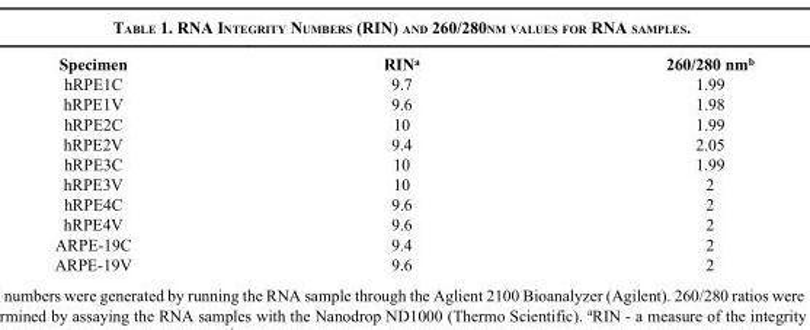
<table><thead><tr><td>Specimen</td><td>RIN<sup>a</sup></td><td>260/280 nm<sup>b</sup></td></tr></thead><tbody><tr><td>hRPE1C</td><td>9.7</td><td>1.99</td></tr><tr><td>hRPE1V</td><td>9.6</td><td>1.98</td></tr><tr><td>hRPE2C</td><td>10</td><td>1.99</td></tr><tr><td>hRPE2V</td><td>9.4</td><td>2.05</td></tr><tr><td>hRPE3C</td><td>10</td><td>1.99</td></tr><tr><td>hRPE3V</td><td>10</td><td>2</td></tr><tr><td>hRPE4C</td><td>9.6</td><td>2</td></tr><tr><td>hRPE4V</td><td>9.6</td><td>2</td></tr><tr><td>ARPE-19C</td><td>9.4</td><td>2</td></tr><tr><td>ARPE-19V</td><td>9.6</td><td>2</td></tr></tbody></table>